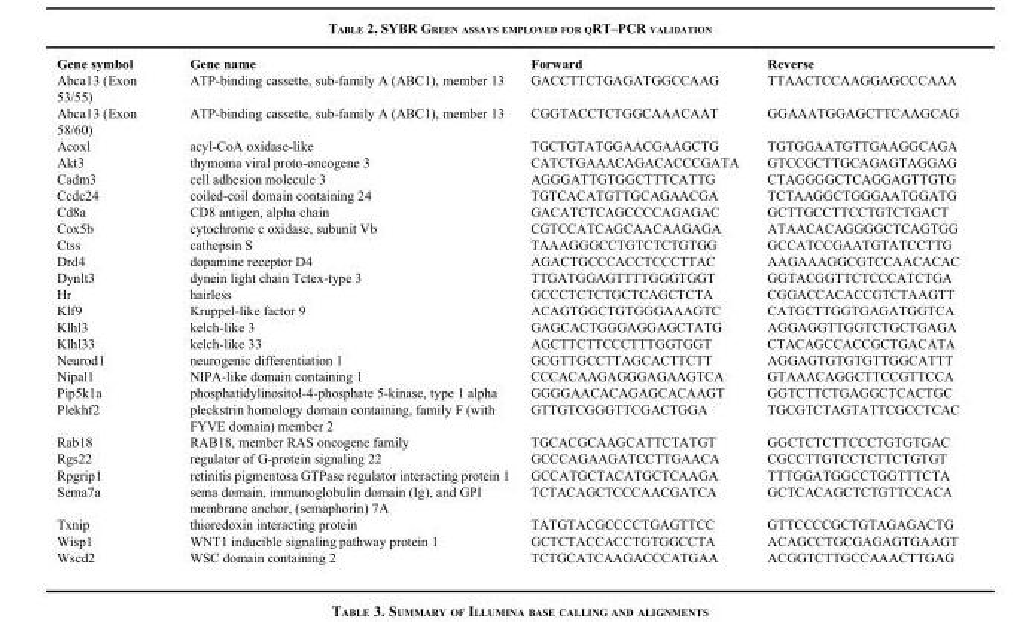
<table><thead><tr><td>Gene symbol</td><td>Gene name</td><td>Forward</td><td>Reverse</td></tr></thead><tbody><tr><td>Abca13 (Exon 53/55)</td><td>ATP-binding cassette, sub-family A (ABC1), member 13</td><td>GACCTTCTGAGATGGCCAAG</td><td>TTAACTCCAAGGAGCCCAAA</td></tr><tr><td>Abca13 (Exon 58/60)</td><td>ATP-binding cassette, sub-family A (ABC1), member 13</td><td>CGGTACCTCTGGCAAACAAT</td><td>GGAAATGGAGCTTCAAGCAG</td></tr><tr><td>Acoxl</td><td>acyl-CoA oxidase-like</td><td>TGCTGTATGGAACGAAGCTG</td><td>TGTGGAATGTTGAAGGCAGA</td></tr><tr><td>Akt3</td><td>thymoma viral proto-oncogene 3</td><td>CATCTGAAACAGACACCCGATA</td><td>GTCCGCTTGCAGAGTAGGAG</td></tr><tr><td>Cadm3</td><td>cell adhesion molecule 3</td><td>AGGGATTGTGGCTTTCATTG</td><td>CTAGGGGCTCAGGAGTTGTG</td></tr><tr><td>Ccdc24</td><td>coiled-coil domain containing 24</td><td>TGTCACATGTTGCAGAACGA</td><td>TCTAAGGCTGGGAATGGATG</td></tr><tr><td>Cd8a</td><td>CD8 antigen, alpha chain</td><td>GACATCTCAGCCCCAGAGAC</td><td>GCTTGCCTTCCTGTCTGACT</td></tr><tr><td>Cox5b</td><td>cytochrome c oxidase, subunit Vb</td><td>CGTCCATCAGCAACAAGAGA</td><td>ATAACACAGGGGCTCAGTGG</td></tr><tr><td>Ctss</td><td>cathepsin S</td><td>TAAAGGGCCTGTCTCTGTGG</td><td>GCCATCCGAATGTATCCTTG</td></tr><tr><td>Drd4</td><td>dopamine receptor D4</td><td>AGACTGCCCACCTCCCTTAC</td><td>AAGAAAGGCGTCCAACACAC</td></tr><tr><td>Dynlt3</td><td>dynein light chain Tctex-type 3</td><td>TTGATGGAGTTTTGGGTGGT</td><td>GGTACGGTTCTCCCATCTGA</td></tr><tr><td>Hr</td><td>hairless</td><td>GCCCTCTCTGCTCAGCTCTA</td><td>CGGACCACACCGTCTAAGTT</td></tr><tr><td>Klf9</td><td>Kruppel-like factor 9</td><td>ACAGTGGCTGTGGGAAAGTC</td><td>CATGCTTGGTGAGATGGTCA</td></tr><tr><td>Klhl3</td><td>kelch-like 3</td><td>GAGCACTGGGAGGAGCTATG</td><td>AGGAGGTTGGTCTGCTGAGA</td></tr><tr><td>Klhl33</td><td>kelch-like 33</td><td>AGCTTCTTCCCTTTGGTGGT</td><td>CTACAGCCACCGCTGACATA</td></tr><tr><td>Neurod1</td><td>neurogenic differentiation 1</td><td>GCGTTGCCTTAGCACTTCTT</td><td>AGGAGTGTGTGTTGGCATTT</td></tr><tr><td>Nipal1</td><td>NIPA-like domain containing 1</td><td>CCCACAAGAGGGAGAAGTCA</td><td>GTAAACAGGCTTCCGTTCCA</td></tr><tr><td>Pip5k1a</td><td>phosphatidylinositol-4-phosphate 5-kinase, type 1 alpha</td><td>GGGGAACACAGAGCACAAGT</td><td>GGTCTTCTGAGGCTCACTGC</td></tr><tr><td>Plekhf2</td><td>pleckstrin homology domain containing, family F (with FYVE domain) member 2</td><td>GTTGTCGGGTTCGACTGGA</td><td>TGCGTCTAGTATTCGCCTCAC</td></tr><tr><td>Rab18</td><td>RAB18, member RAS oncogene family</td><td>TGCACGCAAGCATTCTATGT</td><td>GGCTCTCTTCCCTGTGTGAC</td></tr><tr><td>Rgs22</td><td>regulator of G-protein signaling 22</td><td>GCCCAGAAGATCCTTGAACA</td><td>CGCCTTGTCCTCTTCTGTGT</td></tr><tr><td>Rpgrip1</td><td>retinitis pigmentosa GTPase regulator interacting protein 1</td><td>GCCATGCTACATGCTCAAGA</td><td>TTTGGATGGCCTGGTTTCTA</td></tr><tr><td>Sema7a</td><td>sema domain, immunoglobulin domain (Ig), and GPI membrane anchor, (semaphorin) 7A</td><td>TCTACAGCTCCCAACGATCA</td><td>GCTCACAGCTCTGTTCCACA</td></tr><tr><td>Txnip</td><td>thioredoxin interacting protein</td><td>TATGTACGCCCCTGAGTTCC</td><td>GTTCCCCGCTGTAGAGACTG</td></tr><tr><td>Wisp1</td><td>WNT1 inducible signaling pathway protein 1</td><td>GCTCTACCACCTGTGGCCTA</td><td>ACAGCCTGCGAGAGTGAAGT</td></tr><tr><td>Wscd2</td><td>WSC domain containing 2</td><td>TCTGCATCAAGACCCATGAA</td><td>ACGGTCTTGCCAAACTTGAG</td></tr></tbody></table>